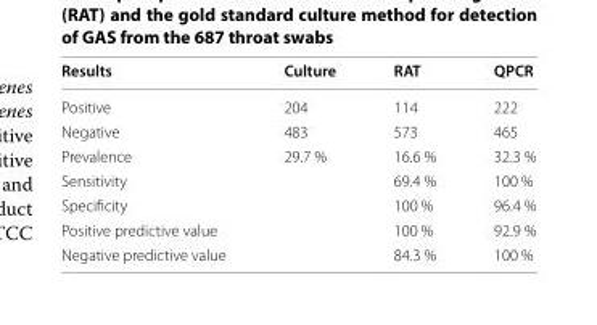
<table><thead><tr><td>Results</td><td>Culture</td><td>RAT</td><td>QPCR</td></tr></thead><tbody><tr><td>Positive</td><td>204</td><td>114</td><td>222</td></tr><tr><td>Negative</td><td>483</td><td>573</td><td>465</td></tr><tr><td>Prevalence</td><td>29.7 %</td><td>16.6 %</td><td>32.3 %</td></tr><tr><td>Sensitivity</td><td></td><td>69.4 %</td><td>100 %</td></tr><tr><td>Specificity</td><td></td><td>100 %</td><td>96.4 %</td></tr><tr><td>Positive predictive value</td><td></td><td>100 %</td><td>92.9 %</td></tr><tr><td>Negative predictive value</td><td></td><td>84.3 %</td><td>100 %</td></tr></tbody></table>